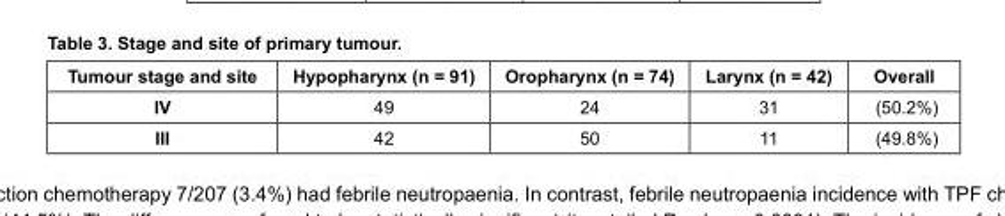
<table><thead><tr><td>Tumour stage and site</td><td>Hypopharynx (n = 91)</td><td>Oropharynx (n = 74)</td><td>Larynx (n = 42)</td><td>Overall</td></tr></thead><tbody><tr><td>IV</td><td>49</td><td>24</td><td>31</td><td>(50.2%)</td></tr><tr><td>III</td><td>42</td><td>50</td><td>11</td><td>(49.8%)</td></tr></tbody></table>